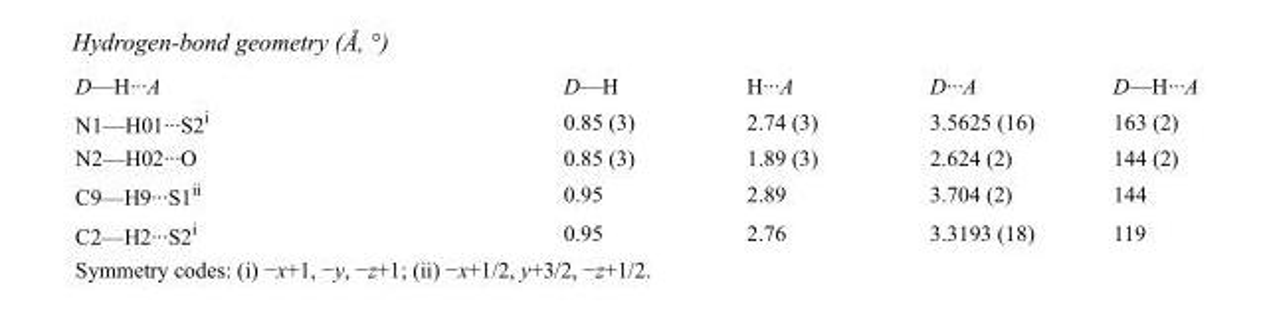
<table><tbody><tr><td>D—H···A</td><td>D—H</td><td>H···A</td><td>D···A</td><td>D—H···A</td></tr><tr><td>N1—H01···S2<sup>i</sup></td><td>0.85 (3)</td><td>2.74 (3)</td><td>3.5625 (16)</td><td>163 (2)</td></tr><tr><td>N2—H02···O</td><td>0.85 (3)</td><td>1.89 (3)</td><td>2.624 (2)</td><td>144 (2)</td></tr><tr><td>C9—H9···S1<sup>ii</sup></td><td>0.95</td><td>2.89</td><td>3.704 (2)</td><td>144</td></tr><tr><td>C2—H2···S2<sup>i</sup></td><td>0.95</td><td>2.76</td><td>3.3193 (18)</td><td>119</td></tr></tbody></table>